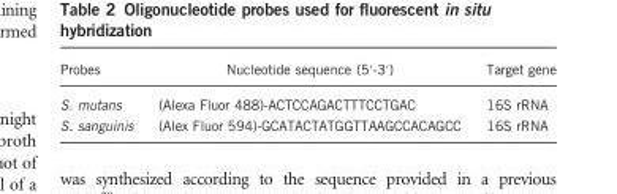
<table><thead><tr><td>Probes</td><td>Nucleotide sequence (5′-3′)</td><td>Target gene</td></tr></thead><tbody><tr><td>S. mutans</td><td>(Alexa Fluor 488)-ACTCCAGACTTTCCTGAC</td><td>16S rRNA</td></tr><tr><td>S. sanguinis</td><td>(Alex Fluor 594)-GCATACTATGGTTAAGCCACAGCC</td><td>16S rRNA</td></tr></tbody></table>